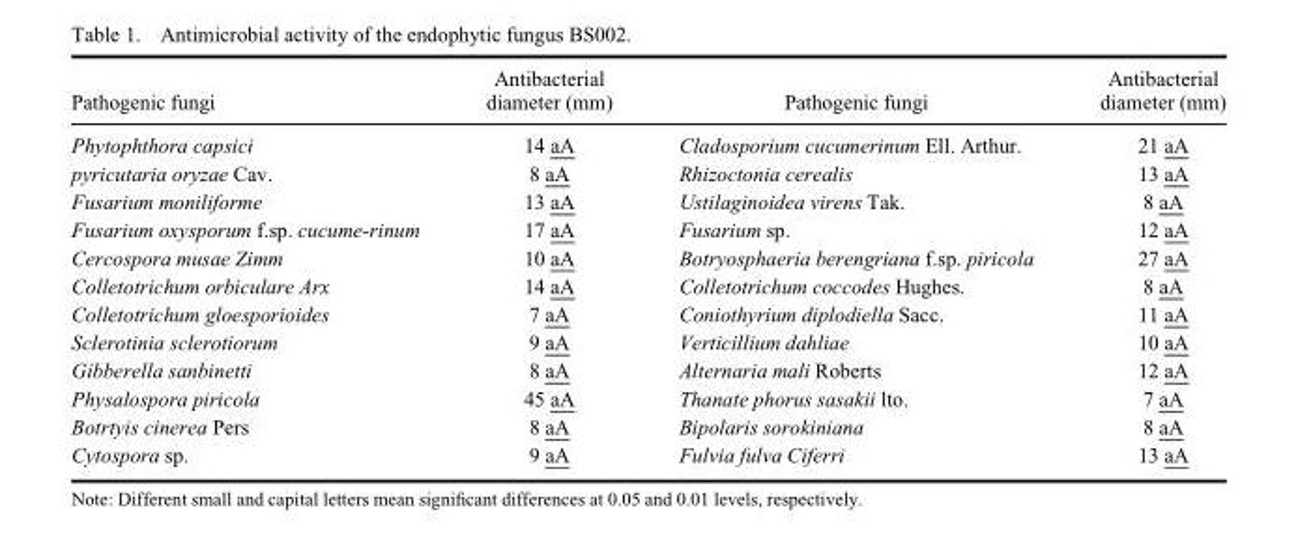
<table><thead><tr><td>Pathogenic fungi</td><td>Antibacterial diameter (mm)</td><td>Pathogenic fungi</td><td>Antibacterial diameter (mm)</td></tr></thead><tbody><tr><td>Phytophthora capsici</td><td>14 aA</td><td>Cladosporium cucumerinum Ell. Arthur.</td><td>21 aA</td></tr><tr><td>pyricutaria oryzae Cav.</td><td>8 aA</td><td>Rhizoctonia cerealis</td><td>13 aA</td></tr><tr><td>Fusarium moniliforme</td><td>13 aA</td><td>Ustilaginoidea virens Tak.</td><td>8 aA</td></tr><tr><td>Fusarium oxysporum f.sp. cucume-rinum</td><td>17 aA</td><td>Fusarium sp.</td><td>12 aA</td></tr><tr><td>Cercospora musae Zimm</td><td>10 aA</td><td>Botryosphaeria berengriana f.sp. piricola</td><td>27 aA</td></tr><tr><td>Colletotrichum orbiculare Arx</td><td>14 aA</td><td>Colletotrichum coccodes Hughes.</td><td>8 aA</td></tr><tr><td>Colletotrichum gloesporioides</td><td>7 aA</td><td>Coniothyrium diplodiella Sacc.</td><td>11 aA</td></tr><tr><td>Sclerotinia sclerotiorum</td><td>9 aA</td><td>Verticillium dahliae</td><td>10 aA</td></tr><tr><td>Gibberella sanbinetti</td><td>8 aA</td><td>Alternaria mali Roberts</td><td>12 aA</td></tr><tr><td>Physalospora piricola</td><td>45 aA</td><td>Thanate phorus sasakii lto.</td><td>7 aA</td></tr><tr><td>Botrtyis cinerea Pers</td><td>8 aA</td><td>Bipolaris sorokiniana</td><td>8 aA</td></tr><tr><td>Cytospora sp.</td><td>9 aA</td><td>Fulvia fulva Ciferri</td><td>13 aA</td></tr></tbody></table>